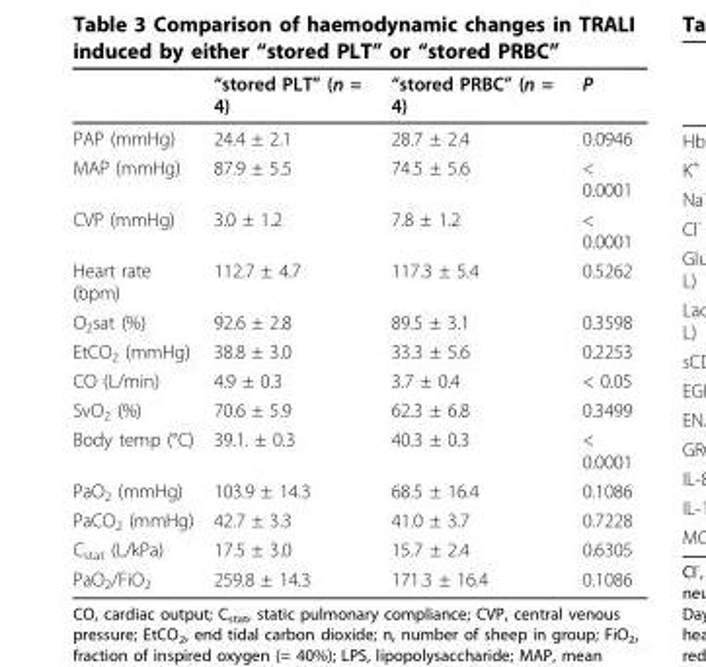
<table><thead><tr><td></td><td>“stored PLT” (n = 4)</td><td>“stored PRBC” (n = 4)</td><td>P</td></tr></thead><tbody><tr><td>PAP (mmHg)</td><td>24.4 ± 2.1</td><td>28.7 ± 2.4</td><td>0.0946</td></tr><tr><td>MAP (mmHg)</td><td>87.9 ± 5.5</td><td>74.5 ± 5.6</td><td>&lt; 0.0001</td></tr><tr><td>CVP (mmHg)</td><td>3.0 ± 1.2</td><td>7.8 ± 1.2</td><td>&lt; 0.0001</td></tr><tr><td>Heart rate (bpm)</td><td>112.7 ± 4.7</td><td>117.3 ± 5.4</td><td>0.5262</td></tr><tr><td>O<sub>2</sub>sat (%)</td><td>92.6 ± 2.8</td><td>89.5 ± 3.1</td><td>0.3598</td></tr><tr><td>EtCO<sub>2</sub> (mmHg)</td><td>38.8 ± 3.0</td><td>33.3 ± 5.6</td><td>0.2253</td></tr><tr><td>CO (L/min)</td><td>4.9 ± 0.3</td><td>3.7 ± 0.4</td><td>&lt; 0.05</td></tr><tr><td>SvO<sub>2</sub> (%)</td><td>70.6 ± 5.9</td><td>62.3 ± 6.8</td><td>0.3499</td></tr><tr><td>Body temp (°C)</td><td>39.1. ± 0.3</td><td>40.3 ± 0.3</td><td>&lt; 0.0001</td></tr><tr><td>PaO<sub>2</sub> (mmHg)</td><td>103.9 ± 14.3</td><td>68.5 ± 16.4</td><td>0.1086</td></tr><tr><td>PaCO<sub>2</sub> (mmHg)</td><td>42.7 ± 3.3</td><td>41.0 ± 3.7</td><td>0.7228</td></tr><tr><td>C<sub>stat</sub> (L/kPa)</td><td>17.5 ± 3.0</td><td>15.7 ± 2.4</td><td>0.6305</td></tr><tr><td>PaO<sub>2</sub>/FiO<sub>2</sub></td><td>259.8 ± 14.3</td><td>171.3 ± 16.4</td><td>0.1086</td></tr></tbody></table>